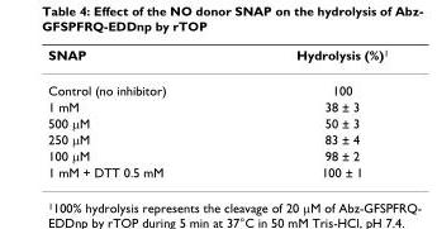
<table><thead><tr><td>SNAP</td><td>Hydrolysis (%)<sup>1</sup></td></tr></thead><tbody><tr><td>Control (no inhibitor)</td><td>100</td></tr><tr><td>1 mM</td><td>38 ± 3</td></tr><tr><td>500 μM</td><td>50 ± 3</td></tr><tr><td>250 μM</td><td>83 ± 4</td></tr><tr><td>100 μM</td><td>98 ± 2</td></tr><tr><td>1 mM + DTT 0.5 mM</td><td>100 ± 1</td></tr></tbody></table>